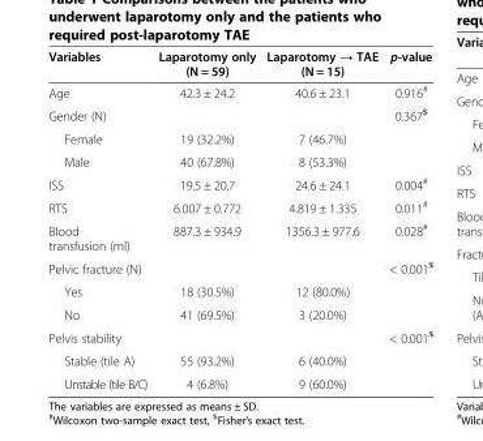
<table><thead><tr><td>Variables</td><td>Laparotomy only (N = 59)</td><td>Laparotomy → TAE (N = 15)</td><td>p-value</td></tr></thead><tbody><tr><td>Age</td><td>42.3 ± 24.2</td><td>40.6 ± 23.1</td><td>0.916<sup>#</sup></td></tr><tr><td>Gender (N)</td><td></td><td></td><td>0.367<sup>$</sup></td></tr><tr><td>Female</td><td>19 (32.2%)</td><td>7 (46.7%)</td><td></td></tr><tr><td>Male</td><td>40 (67.8%)</td><td>8 (53.3%)</td><td></td></tr><tr><td>ISS</td><td>19.5 ± 20.7</td><td>24.6 ± 24.1</td><td>0.004<sup>#</sup></td></tr><tr><td>RTS</td><td>6.007 ± 0.772</td><td>4.819 ± 1.335</td><td>0.011<sup>#</sup></td></tr><tr><td>Blood transfusion (ml)</td><td>887.3 ± 934.9</td><td>1356.3 ± 977.6</td><td>0.028<sup>#</sup></td></tr><tr><td>Pelvic fracture (N)</td><td></td><td></td><td>&lt; 0.001<sup>$</sup></td></tr><tr><td>Yes</td><td>18 (30.5%)</td><td>12 (80.0%)</td><td></td></tr><tr><td>No</td><td>41 (69.5%)</td><td>3 (20.0%)</td><td></td></tr><tr><td>Pelvis stability</td><td></td><td></td><td>&lt; 0.001<sup>$</sup></td></tr><tr><td>Stable (tile A)</td><td>55 (93.2%)</td><td>6 (40.0%)</td><td></td></tr><tr><td>Unstable (tile B/C)</td><td>4 (6.8%)</td><td>9 (60.0%)</td><td></td></tr></tbody></table>